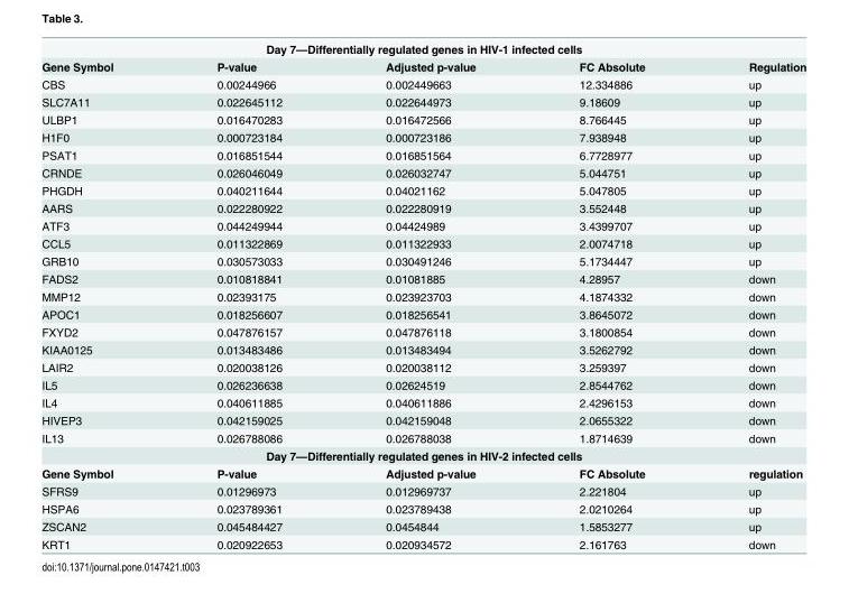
<table><tbody><tr><td colspan="5">Day 7—Differentially regulated genes in HIV-1 infected cells</td></tr><tr><td>Gene Symbol</td><td>P-value</td><td>Adjusted p-value</td><td>FC Absolute</td><td>Regulation</td></tr><tr><td>CBS</td><td>0.00244966</td><td>0.002449663</td><td>12.334886</td><td>up</td></tr><tr><td>SLC7A11</td><td>0.022645112</td><td>0.022644973</td><td>9.18609</td><td>up</td></tr><tr><td>ULBP1</td><td>0.016470283</td><td>0.016472566</td><td>8.766445</td><td>up</td></tr><tr><td>H1F0</td><td>0.000723184</td><td>0.000723186</td><td>7.938948</td><td>up</td></tr><tr><td>PSAT1</td><td>0.016851544</td><td>0.016851564</td><td>6.7728977</td><td>up</td></tr><tr><td>CRNDE</td><td>0.026046049</td><td>0.026032747</td><td>5.044751</td><td>up</td></tr><tr><td>PHGDH</td><td>0.040211644</td><td>0.04021162</td><td>5.047805</td><td>up</td></tr><tr><td>AARS</td><td>0.022280922</td><td>0.022280919</td><td>3.552448</td><td>up</td></tr><tr><td>ATF3</td><td>0.044249944</td><td>0.04424989</td><td>3.4399707</td><td>up</td></tr><tr><td>CCL5</td><td>0.011322869</td><td>0.011322933</td><td>2.0074718</td><td>up</td></tr><tr><td>GRB10</td><td>0.030573033</td><td>0.030491246</td><td>5.1734447</td><td>up</td></tr><tr><td>FADS2</td><td>0.010818841</td><td>0.01081885</td><td>4.28957</td><td>down</td></tr><tr><td>MMP12</td><td>0.02393175</td><td>0.023923703</td><td>4.1874332</td><td>down</td></tr><tr><td>APOC1</td><td>0.018256607</td><td>0.018256541</td><td>3.8645072</td><td>down</td></tr><tr><td>FXYD2</td><td>0.047876157</td><td>0.047876118</td><td>3.1800854</td><td>down</td></tr><tr><td>KIAA0125</td><td>0.013483486</td><td>0.013483494</td><td>3.5262792</td><td>down</td></tr><tr><td>LAIR2</td><td>0.020038126</td><td>0.020038112</td><td>3.259397</td><td>down</td></tr><tr><td>IL5</td><td>0.026236638</td><td>0.02624519</td><td>2.8544762</td><td>down</td></tr><tr><td>IL4</td><td>0.040611885</td><td>0.040611886</td><td>2.4296153</td><td>down</td></tr><tr><td>HIVEP3</td><td>0.042159025</td><td>0.042159048</td><td>2.0655322</td><td>down</td></tr><tr><td>IL13</td><td>0.026788086</td><td>0.026788038</td><td>1.8714639</td><td>down</td></tr><tr><td colspan="5">Day 7—Differentially regulated genes in HIV-2 infected cells</td></tr><tr><td>Gene Symbol</td><td>P-value</td><td>Adjusted p-value</td><td>FC Absolute</td><td>regulation</td></tr><tr><td>SFRS9</td><td>0.01296973</td><td>0.012969737</td><td>2.221804</td><td>up</td></tr><tr><td>HSPA6</td><td>0.023789361</td><td>0.023789438</td><td>2.0210264</td><td>up</td></tr><tr><td>ZSCAN2</td><td>0.045484427</td><td>0.0454844</td><td>1.5853277</td><td>up</td></tr><tr><td>KRT1</td><td>0.020922653</td><td>0.020934572</td><td>2.161763</td><td>down</td></tr></tbody></table>